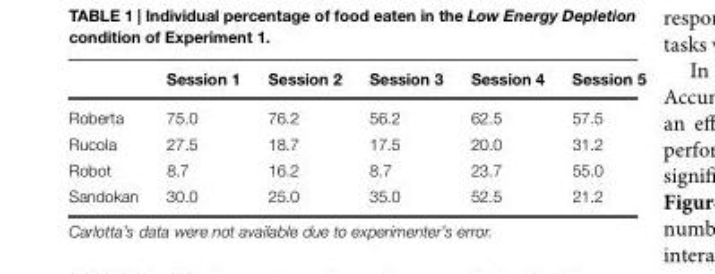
<table><thead><tr><td></td><td>Session 1</td><td>Session 2</td><td>Session 3</td><td>Session 4</td><td>Session 5</td></tr></thead><tbody><tr><td>Roberta</td><td>75.0</td><td>76.2</td><td>56.2</td><td>62.5</td><td>57.5</td></tr><tr><td>Rucola</td><td>27.5</td><td>18.7</td><td>17.5</td><td>20.0</td><td>31.2</td></tr><tr><td>Robot</td><td>8.7</td><td>16.2</td><td>8.7</td><td>23.7</td><td>55.0</td></tr><tr><td>Sandokan</td><td>30.0</td><td>25.0</td><td>35.0</td><td>52.5</td><td>21.2</td></tr></tbody></table>